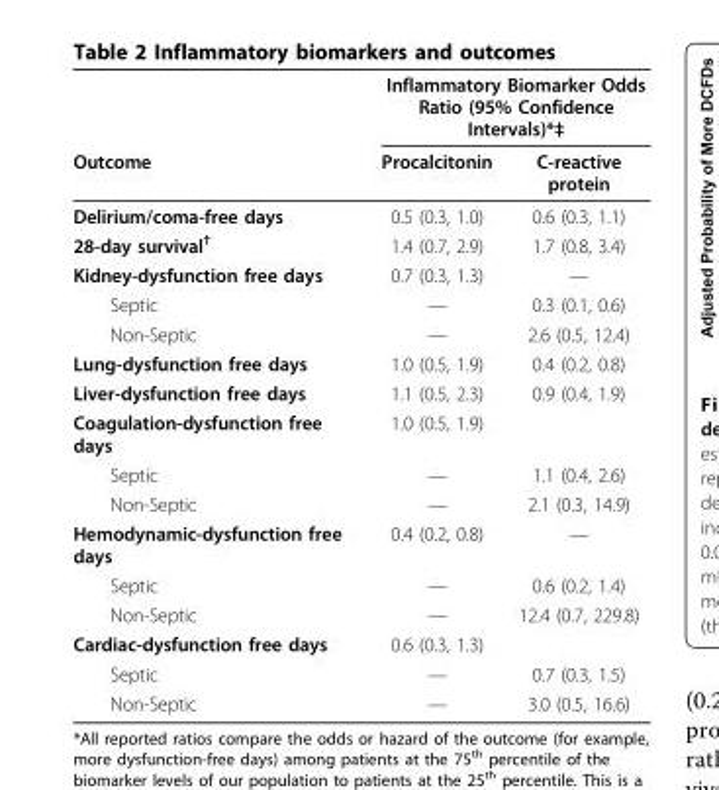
<table><thead><tr><td rowspan="2">Outcome</td><td colspan="2">Inflammatory Biomarker Odds Ratio (95% Confidence Intervals)*‡</td></tr><tr><td>Procalcitonin</td><td>C-reactive protein</td></tr></thead><tbody><tr><td>Delirium/coma-free days</td><td>0.5 (0.3, 1.0)</td><td>0.6 (0.3, 1.1)</td></tr><tr><td>28-day survival<sup>†</sup></td><td>1.4 (0.7, 2.9)</td><td>1.7 (0.8, 3.4)</td></tr><tr><td>Kidney-dysfunction free days</td><td>0.7 (0.3, 1.3)</td><td>—</td></tr><tr><td>Septic</td><td>—</td><td>0.3 (0.1, 0.6)</td></tr><tr><td>Non-Septic</td><td>—</td><td>2.6 (0.5, 12.4)</td></tr><tr><td>Lung-dysfunction free days</td><td>1.0 (0.5, 1.9)</td><td>0.4 (0.2, 0.8)</td></tr><tr><td>Liver-dysfunction free days</td><td>1.1 (0.5, 2.3)</td><td>0.9 (0.4, 1.9)</td></tr><tr><td>Coagulation-dysfunction free days</td><td>1.0 (0.5, 1.9)</td><td></td></tr><tr><td>Septic</td><td>—</td><td>1.1 (0.4, 2.6)</td></tr><tr><td>Non-Septic</td><td>—</td><td>2.1 (0.3, 14.9)</td></tr><tr><td>Hemodynamic-dysfunction free days</td><td>0.4 (0.2, 0.8)</td><td>—</td></tr><tr><td>Septic</td><td>—</td><td>0.6 (0.2, 1.4)</td></tr><tr><td>Non-Septic</td><td>—</td><td>12.4 (0.7, 229.8)</td></tr><tr><td>Cardiac-dysfunction free days</td><td>0.6 (0.3, 1.3)</td><td></td></tr><tr><td>Septic</td><td>—</td><td>0.7 (0.3, 1.5)</td></tr><tr><td>Non-Septic</td><td>—</td><td>3.0 (0.5, 16.6)</td></tr></tbody></table>